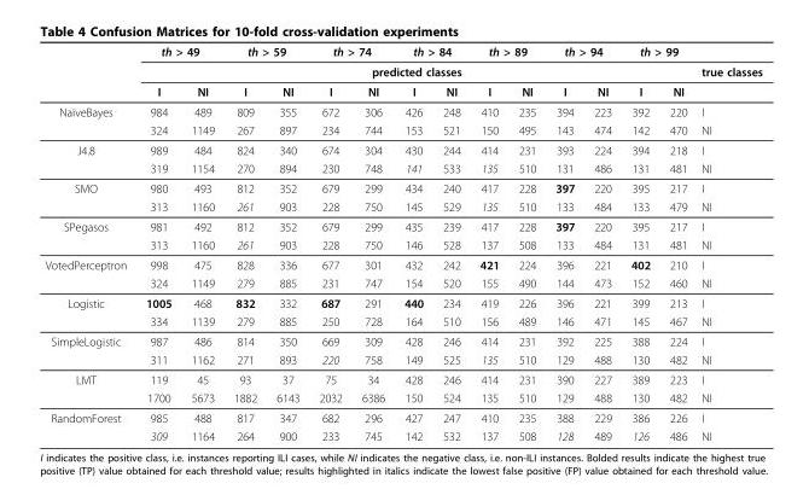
<table><thead><tr><td rowspan="3"></td><td colspan="2">th &gt; 49</td><td colspan="2">th &gt; 59</td><td colspan="2">th &gt; 74</td><td colspan="2">th &gt; 84</td><td colspan="2">th &gt; 89</td><td colspan="2">th &gt; 94</td><td colspan="2">th &gt; 99</td><td rowspan="3">true classes</td></tr><tr><td colspan="14">predicted classes</td></tr><tr><td>I</td><td>NI</td><td>I</td><td>NI</td><td>I</td><td>NI</td><td>I</td><td>NI</td><td>I</td><td>NI</td><td>I</td><td>NI</td><td>I</td><td>NI</td></tr></thead><tbody><tr><td rowspan="2">NaïveBayes</td><td>984</td><td>489</td><td>809</td><td>355</td><td>672</td><td>306</td><td>426</td><td>248</td><td>410</td><td>235</td><td>394</td><td>223</td><td>392</td><td>220</td><td>I</td></tr><tr><td>324</td><td>1149</td><td>267</td><td>897</td><td>234</td><td>744</td><td>153</td><td>521</td><td>150</td><td>495</td><td>143</td><td>474</td><td>142</td><td>470</td><td>NI</td></tr><tr><td rowspan="2">J4.8</td><td>989</td><td>484</td><td>824</td><td>340</td><td>674</td><td>304</td><td>430</td><td>244</td><td>414</td><td>231</td><td>393</td><td>224</td><td>394</td><td>218</td><td>I</td></tr><tr><td>319</td><td>1154</td><td>270</td><td>894</td><td>230</td><td>748</td><td>141</td><td>533</td><td>135</td><td>510</td><td>131</td><td>486</td><td>131</td><td>481</td><td>NI</td></tr><tr><td rowspan="2">SMO</td><td>980</td><td>493</td><td>812</td><td>352</td><td>679</td><td>299</td><td>434</td><td>240</td><td>417</td><td>228</td><td>397</td><td>220</td><td>395</td><td>217</td><td>I</td></tr><tr><td>313</td><td>1160</td><td>261</td><td>903</td><td>228</td><td>750</td><td>145</td><td>529</td><td>135</td><td>510</td><td>133</td><td>484</td><td>133</td><td>479</td><td>NI</td></tr><tr><td rowspan="2">SPegasos</td><td>981</td><td>492</td><td>812</td><td>352</td><td>679</td><td>299</td><td>435</td><td>239</td><td>417</td><td>228</td><td>397</td><td>220</td><td>395</td><td>217</td><td>I</td></tr><tr><td>313</td><td>1160</td><td>261</td><td>903</td><td>228</td><td>750</td><td>146</td><td>528</td><td>137</td><td>508</td><td>133</td><td>484</td><td>131</td><td>481</td><td>NI</td></tr><tr><td rowspan="2">VotedPerceptron</td><td>998</td><td>475</td><td>828</td><td>336</td><td>677</td><td>301</td><td>432</td><td>242</td><td>421</td><td>224</td><td>396</td><td>221</td><td>402</td><td>210</td><td>I</td></tr><tr><td>324</td><td>1149</td><td>279</td><td>885</td><td>231</td><td>747</td><td>154</td><td>520</td><td>155</td><td>490</td><td>144</td><td>473</td><td>152</td><td>460</td><td>NI</td></tr><tr><td rowspan="2">Logistic</td><td>1005</td><td>468</td><td>832</td><td>332</td><td>687</td><td>291</td><td>440</td><td>234</td><td>419</td><td>226</td><td>396</td><td>221</td><td>399</td><td>213</td><td>I</td></tr><tr><td>334</td><td>1139</td><td>279</td><td>885</td><td>250</td><td>728</td><td>164</td><td>510</td><td>156</td><td>489</td><td>146</td><td>471</td><td>145</td><td>467</td><td>NI</td></tr><tr><td rowspan="2">SimpleLogistic</td><td>987</td><td>486</td><td>814</td><td>350</td><td>669</td><td>309</td><td>428</td><td>246</td><td>414</td><td>231</td><td>392</td><td>225</td><td>388</td><td>224</td><td>I</td></tr><tr><td>311</td><td>1162</td><td>271</td><td>893</td><td>220</td><td>758</td><td>149</td><td>525</td><td>135</td><td>510</td><td>129</td><td>488</td><td>130</td><td>482</td><td>NI</td></tr><tr><td rowspan="2">LMT</td><td>119</td><td>45</td><td>93</td><td>37</td><td>75</td><td>34</td><td>428</td><td>246</td><td>414</td><td>231</td><td>390</td><td>227</td><td>389</td><td>223</td><td>I</td></tr><tr><td>1700</td><td>5673</td><td>1882</td><td>6143</td><td>2032</td><td>6386</td><td>150</td><td>524</td><td>135</td><td>510</td><td>129</td><td>488</td><td>130</td><td>482</td><td>NI</td></tr><tr><td rowspan="2">RandomForest</td><td>985</td><td>488</td><td>817</td><td>347</td><td>682</td><td>296</td><td>427</td><td>247</td><td>410</td><td>235</td><td>388</td><td>229</td><td>386</td><td>226</td><td>I</td></tr><tr><td>309</td><td>1164</td><td>264</td><td>900</td><td>233</td><td>745</td><td>142</td><td>532</td><td>137</td><td>508</td><td>128</td><td>489</td><td>126</td><td>486</td><td>NI</td></tr></tbody></table>